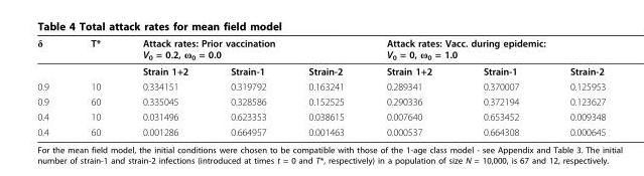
<table><thead><tr><td rowspan="2">δ</td><td rowspan="2">T*</td><td colspan="3">Attack rates: Prior vaccination V<sub>0</sub> = 0.2, ω<sub>0</sub> = 0.0</td><td colspan="3">Attack rates: Vacc. during epidemic: V<sub>0</sub> = 0, ω<sub>0</sub> = 1.0</td></tr><tr><td>Strain 1+2</td><td>Strain-1</td><td>Strain-2</td><td>Strain 1+2</td><td>Strain-1</td><td>Strain-2</td></tr></thead><tbody><tr><td>0.9</td><td>10</td><td>0.334151</td><td>0.319792</td><td>0.163241</td><td>0.289341</td><td>0.370007</td><td>0.125953</td></tr><tr><td>0.9</td><td>60</td><td>0.335045</td><td>0.328586</td><td>0.152525</td><td>0.290336</td><td>0.372194</td><td>0.123627</td></tr><tr><td>0.4</td><td>10</td><td>0.031496</td><td>0.623353</td><td>0.038615</td><td>0.007640</td><td>0.653452</td><td>0.009348</td></tr><tr><td>0.4</td><td>60</td><td>0.001286</td><td>0.664957</td><td>0.001463</td><td>0.000537</td><td>0.664308</td><td>0.000645</td></tr></tbody></table>